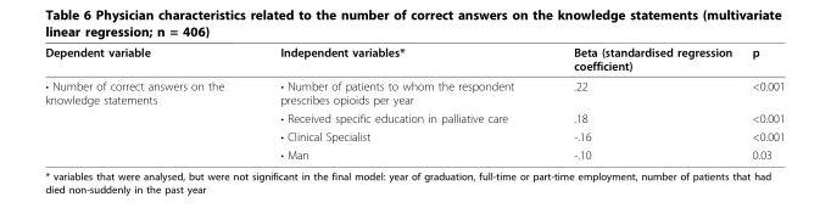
<table><thead><tr><td>Dependent variable</td><td>Independent variables*</td><td>Beta (standardised regression coefficient)</td><td>p</td></tr></thead><tbody><tr><td rowspan="4">• Number of correct answers on the knowledge statements</td><td>• Number of patients to whom the respondent prescribes opioids per year</td><td>.22</td><td>&lt;0.001</td></tr><tr><td>• Received specific education in palliative care</td><td>.18</td><td>&lt;0.001</td></tr><tr><td>• Clinical Specialist</td><td>-.16</td><td>&lt;0.001</td></tr><tr><td>• Man</td><td>-.10</td><td>0.03</td></tr></tbody></table>